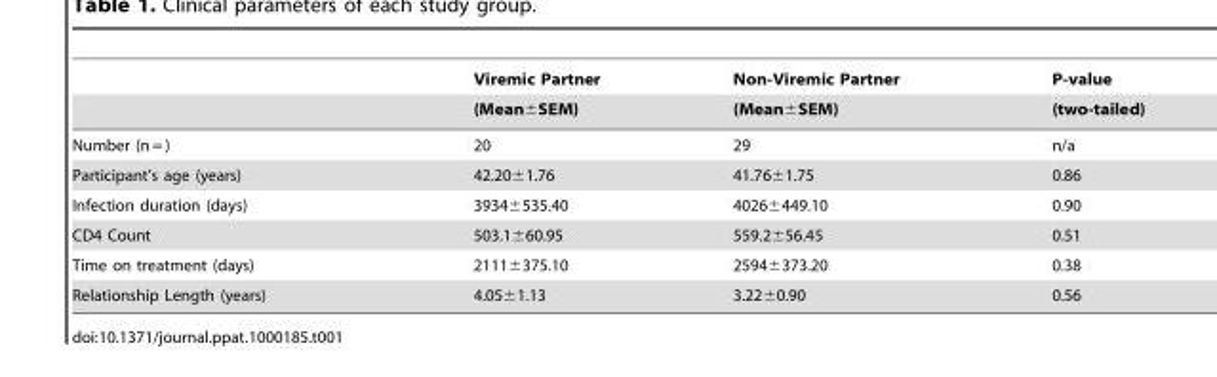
<table><thead><tr><td rowspan="2"></td><td rowspan="2">Viremic Partner (Mean±SEM)</td><td rowspan="2">Non-Viremic Partner (Mean±SEM)</td><td rowspan="2">P-value (two-tailed)</td></tr><tr></tr></thead><tbody><tr><td>Number (n = )</td><td>20</td><td>29</td><td>n/a</td></tr><tr><td>Participant’s age (years)</td><td>42.20±1.76</td><td>41.76±1.75</td><td>0.86</td></tr><tr><td>Infection duration (days)</td><td>3934±535.40</td><td>4026±449.10</td><td>0.90</td></tr><tr><td>CD4 Count</td><td>503.1±60.95</td><td>559.2±56.45</td><td>0.51</td></tr><tr><td>Time on treatment (days)</td><td>2111±375.10</td><td>2594±373.20</td><td>0.38</td></tr><tr><td>Relationship Length (years)</td><td>4.05±1.13</td><td>3.22±0.90</td><td>0.56</td></tr></tbody></table>